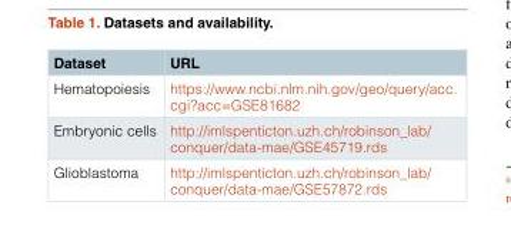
<table><thead><tr><td>Dataset</td><td>URL</td></tr></thead><tbody><tr><td>Hematopoiesis</td><td>https://www.ncbi.nlm.nih.gov/geo/query/acc. cgi?acc=GSE81682</td></tr><tr><td>Embryonic cells</td><td>http://imlspenticton.uzh.ch/robinson_lab/ conquer/data-mae/GSE45719.rds</td></tr><tr><td>Glioblastoma</td><td>http://imlspenticton.uzh.ch/robinson_lab/ conquer/data-mae/GSE57872.rds</td></tr></tbody></table>